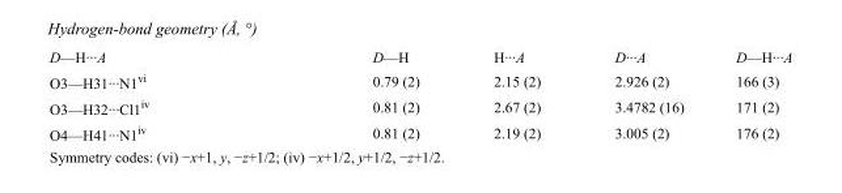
<table><tbody><tr><td>D—H···A</td><td>D—H</td><td>H···A</td><td>D···A</td><td>D—H···A</td></tr><tr><td>O3—H31···N1<sup>vi</sup></td><td>0.79 (2)</td><td>2.15 (2)</td><td>2.926 (2)</td><td>166 (3)</td></tr><tr><td>O3—H32···Cl1<sup>iv</sup></td><td>0.81 (2)</td><td>2.67 (2)</td><td>3.4782 (16)</td><td>171 (2)</td></tr><tr><td>O4—H41···N1<sup>iv</sup></td><td>0.81 (2)</td><td>2.19 (2)</td><td>3.005 (2)</td><td>176 (2)</td></tr></tbody></table>